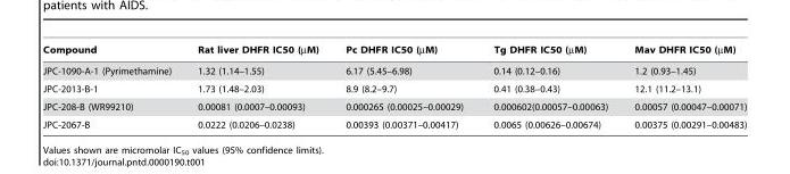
<table><thead><tr><td>Compound</td><td>Rat liver DHFR IC50 (µM)</td><td>Pc DHFR IC50 (µM)</td><td>Tg DHFR IC50 (µM)</td><td>Mav DHFR IC50 (µM)</td></tr></thead><tbody><tr><td>JPC-1090-A-1 (Pyrimethamine)</td><td>1.32 (1.14–1.55)</td><td>6.17 (5.45–6.98)</td><td>0.14 (0.12–0.16)</td><td>1.2 (0.93–1.45)</td></tr><tr><td>JPC-2013-B-1</td><td>1.73 (1.48–2.03)</td><td>8.9 (8.2–9.7)</td><td>0.41 (0.38–0.43)</td><td>12.1 (11.2–13.1)</td></tr><tr><td>JPC-208-B (WR99210)</td><td>0.00081 (0.0007–0.00093)</td><td>0.000265 (0.00025–0.00029)</td><td>0.000602(0.00057–0.00063)</td><td>0.00057 (0.00047–0.00071)</td></tr><tr><td>JPC-2067-B</td><td>0.0222 (0.0206–0.0238)</td><td>0.00393 (0.00371–0.00417)</td><td>0.0065 (0.00626–0.00674)</td><td>0.00375 (0.00291–0.00483)</td></tr></tbody></table>